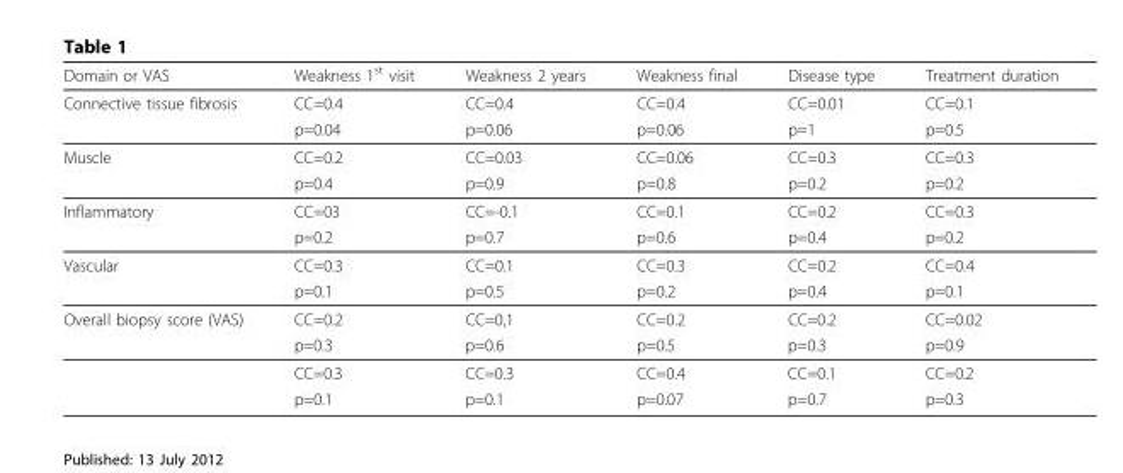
<table><thead><tr><td>Domain or VAS</td><td>Weakness 1<sup>st</sup> visit</td><td>Weakness 2 years</td><td>Weakness final</td><td>Disease type</td><td>Treatment duration</td></tr></thead><tbody><tr><td rowspan="2">Connective tissue fibrosis</td><td>CC=0.4</td><td>CC=0.4</td><td>CC=0.4</td><td>CC=0.01</td><td>CC=0.1</td></tr><tr><td>p=0.04</td><td>p=0.06</td><td>p=0.06</td><td>p=1</td><td>p=0.5</td></tr><tr><td rowspan="2">Muscle</td><td>CC=0.2</td><td>CC=0.03</td><td>CC=0.06</td><td>CC=0.3</td><td>CC=0.3</td></tr><tr><td>p=0.4</td><td>p=0.9</td><td>p=0.8</td><td>p=0.2</td><td>p=0.2</td></tr><tr><td rowspan="2">Inflammatory</td><td>CC=03</td><td>CC=-0.1</td><td>CC=0.1</td><td>CC=0.2</td><td>CC=0.3</td></tr><tr><td>p=0.2</td><td>p=0.7</td><td>p=0.6</td><td>p=0.4</td><td>p=0.2</td></tr><tr><td rowspan="2">Vascular</td><td>CC=0.3</td><td>CC=0.1</td><td>CC=0.3</td><td>CC=0.2</td><td>CC=0.4</td></tr><tr><td>p=0.1</td><td>p=0.5</td><td>p=0.2</td><td>p=0.4</td><td>p=0.1</td></tr><tr><td rowspan="4">Overall biopsy score (VAS)</td><td>CC=0.2</td><td>CC=0,1</td><td>CC=0.2</td><td>CC=0.2</td><td>CC=0.02</td></tr><tr><td>p=0.3</td><td>p=0.6</td><td>p=0.5</td><td>p=0.3</td><td>p=0.9</td></tr><tr><td>CC=0.3</td><td>CC=0.3</td><td>CC=0.4</td><td>CC=0.1</td><td>CC=0.2</td></tr><tr><td>p=0.1</td><td>p=0.1</td><td>p=0.07</td><td>p=0.7</td><td>p=0.3</td></tr></tbody></table>